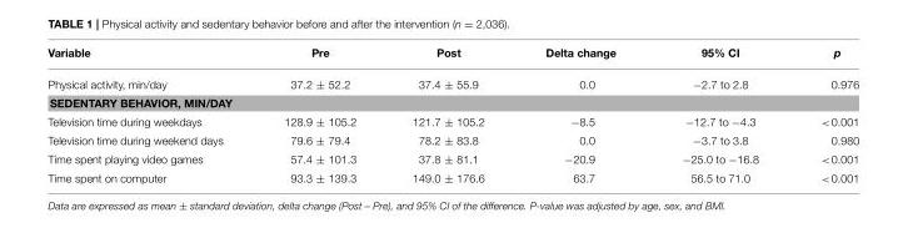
<table><thead><tr><td>Variable</td><td>Pre</td><td>Post</td><td>Delta change</td><td>95% CI</td><td>p</td></tr></thead><tbody><tr><td>Physical activity, min/day</td><td>37.2 ± 52.2</td><td>37.4 ± 55.9</td><td>0.0</td><td>−2.7 to 2.8</td><td>0.976</td></tr><tr><td colspan="6">SEDENTARY BEHAVIOR, MIN/DAY</td></tr><tr><td>Television time during weekdays</td><td>128.9 ± 105.2</td><td>121.7 ± 105.2</td><td>−8.5</td><td>−12.7 to −4.3</td><td>&lt;0.001</td></tr><tr><td>Television time during weekend days</td><td>79.6 ± 79.4</td><td>78.2 ± 83.8</td><td>0.0</td><td>−3.7 to 3.8</td><td>0.980</td></tr><tr><td>Time spent playing video games</td><td>57.4 ± 101.3</td><td>37.8 ± 81.1</td><td>−20.9</td><td>−25.0 to −16.8</td><td>&lt;0.001</td></tr><tr><td>Time spent on computer</td><td>93.3 ± 139.3</td><td>149.0 ± 176.6</td><td>63.7</td><td>56.5 to 71.0</td><td>&lt;0.001</td></tr></tbody></table>